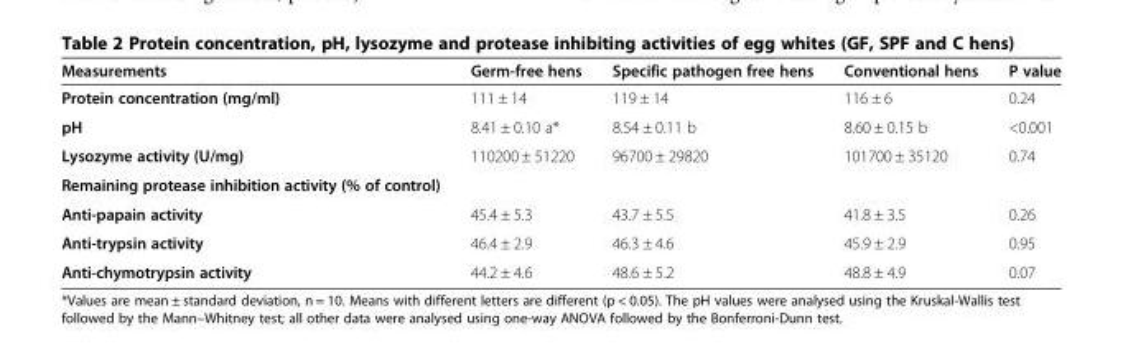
<table><thead><tr><td>Measurements</td><td>Germ-free hens</td><td>Specific pathogen free hens</td><td>Conventional hens</td><td>P value</td></tr></thead><tbody><tr><td>Protein concentration (mg/ml)</td><td>111 ± 14</td><td>119 ± 14</td><td>116 ± 6</td><td>0.24</td></tr><tr><td>pH</td><td>8.41 ± 0.10 a*</td><td>8.54 ± 0.11 b</td><td>8.60 ± 0.15 b</td><td>&lt;0.001</td></tr><tr><td>Lysozyme activity (U/mg)</td><td>110200 ± 51220</td><td>96700 ± 29820</td><td>101700 ± 35120</td><td>0.74</td></tr><tr><td colspan="5">Remaining protease inhibition activity (% of control)</td></tr><tr><td>Anti-papain activity</td><td>45.4 ± 5.3</td><td>43.7 ± 5.5</td><td>41.8 ± 3.5</td><td>0.26</td></tr><tr><td>Anti-trypsin activity</td><td>46.4 ± 2.9</td><td>46.3 ± 4.6</td><td>45.9 ± 2.9</td><td>0.95</td></tr><tr><td>Anti-chymotrypsin activity</td><td>44.2 ± 4.6</td><td>48.6 ± 5.2</td><td>48.8 ± 4.9</td><td>0.07</td></tr></tbody></table>